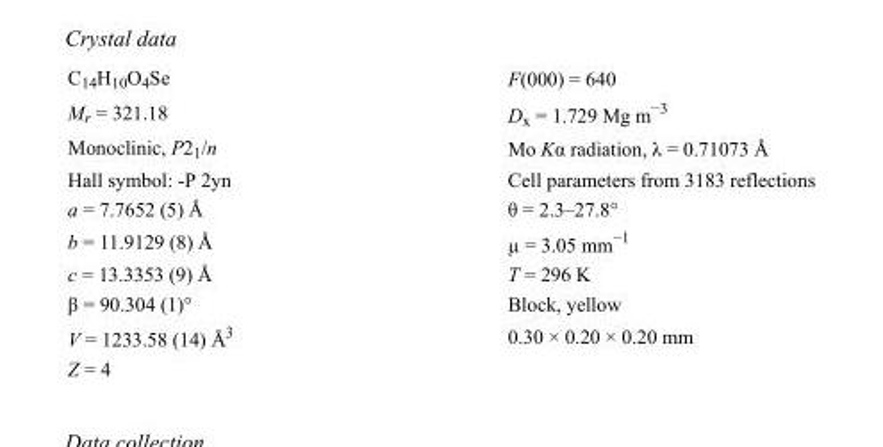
<table><tbody><tr><td>C<sub>14</sub>H<sub>10</sub>O<sub>4</sub>Se</td><td>F(000) = 640</td></tr><tr><td>M<sub>r</sub> = 321.18</td><td>D<sub>x</sub> = 1.729 Mg m<sup>−3</sup></td></tr><tr><td>Monoclinic, P2<sub>1</sub>/n</td><td>Mo Kα radiation, λ = 0.71073 Å</td></tr><tr><td>Hall symbol: -P 2yn</td><td>Cell parameters from 3183 reflections</td></tr><tr><td>a = 7.7652 (5) Å</td><td>θ = 2.3–27.8°</td></tr><tr><td>b = 11.9129 (8) Å</td><td>µ = 3.05 mm<sup>−1</sup></td></tr><tr><td>c = 13.3353 (9) Å</td><td>T = 296 K</td></tr><tr><td>β = 90.304 (1)°</td><td>Block, yellow</td></tr><tr><td>V = 1233.58 (14) Å<sup>3</sup></td><td>0.30 × 0.20 × 0.20 mm</td></tr><tr><td>Z = 4</td><td></td></tr></tbody></table>